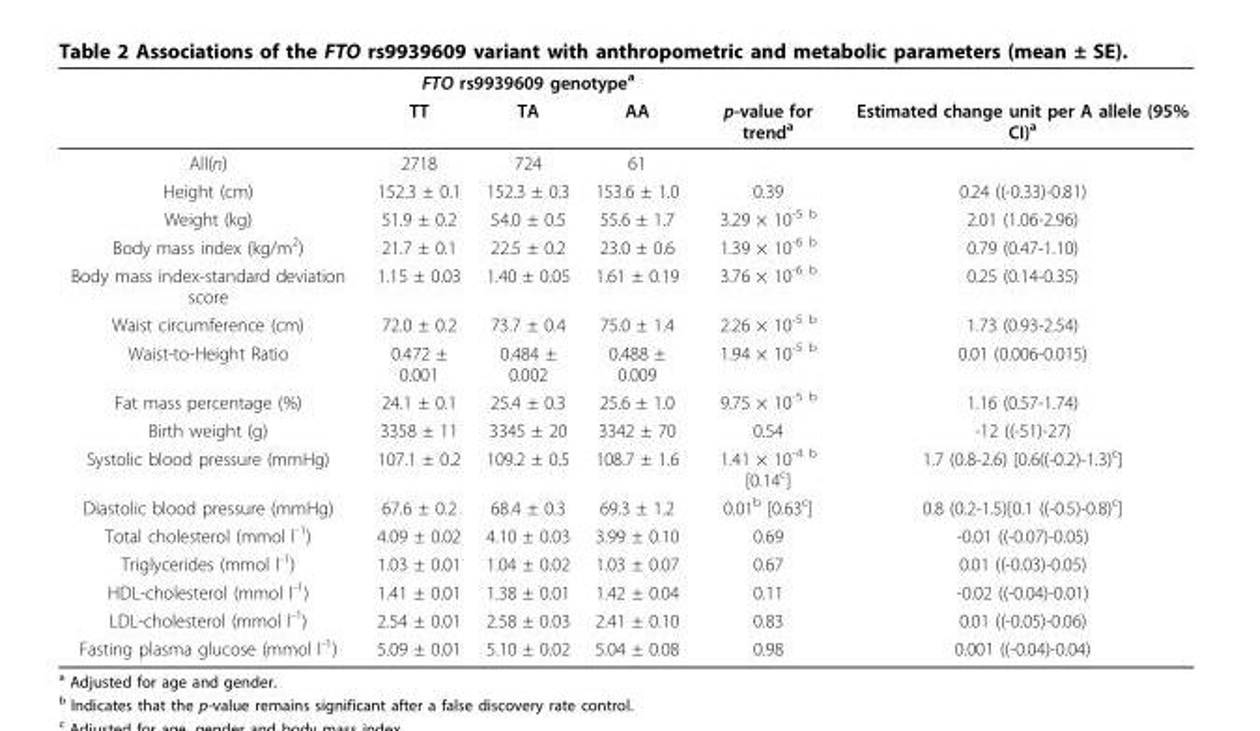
<table><thead><tr><td rowspan="2"></td><td colspan="3">FTO rs9939609 genotype<sup>a</sup></td><td rowspan="2">p-value for trend<sup>a</sup></td><td rowspan="2">Estimated change unit per A allele (95% CI)<sup>a</sup></td></tr><tr><td>TT</td><td>TA</td><td>AA</td></tr></thead><tbody><tr><td>All(n)</td><td>2718</td><td>724</td><td>61</td><td></td><td></td></tr><tr><td>Height (cm)</td><td>152.3 ± 0.1</td><td>152.3 ± 0.3</td><td>153.6 ± 1.0</td><td>0.39</td><td>0.24 ((-0.33)-0.81)</td></tr><tr><td>Weight (kg)</td><td>51.9 ± 0.2</td><td>54.0 ± 0.5</td><td>55.6 ± 1.7</td><td>3.29 × 10<sup>-5 b</sup></td><td>2.01 (1.06-2.96)</td></tr><tr><td>Body mass index (kg/m<sup>2</sup>)</td><td>21.7 ± 0.1</td><td>22.5 ± 0.2</td><td>23.0 ± 0.6</td><td>1.39 × 10<sup>-6 b</sup></td><td>0.79 (0.47-1.10)</td></tr><tr><td>Body mass index-standard deviation score</td><td>1.15 ± 0.03</td><td>1.40 ± 0.05</td><td>1.61 ± 0.19</td><td>3.76 × 10<sup>-6 b</sup></td><td>0.25 (0.14-0.35)</td></tr><tr><td>Waist circumference (cm)</td><td>72.0 ± 0.2</td><td>73.7 ± 0.4</td><td>75.0 ± 1.4</td><td>2.26 × 10<sup>-5 b</sup></td><td>1.73 (0.93-2.54)</td></tr><tr><td>Waist-to-Height Ratio</td><td>0.472 ± 0.001</td><td>0.484 ± 0.002</td><td>0.488 ± 0.009</td><td>1.94 × 10<sup>-5 b</sup></td><td>0.01 (0.006-0.015)</td></tr><tr><td>Fat mass percentage (%)</td><td>24.1 ± 0.1</td><td>25.4 ± 0.3</td><td>25.6 ± 1.0</td><td>9.75 × 10<sup>-5 b</sup></td><td>1.16 (0.57-1.74)</td></tr><tr><td>Birth weight (g)</td><td>3358 ± 11</td><td>3345 ± 20</td><td>3342 ± 70</td><td>0.54</td><td>-12 ((-51)-27)</td></tr><tr><td>Systolic blood pressure (mmHg)</td><td>107.1 ± 0.2</td><td>109.2 ± 0.5</td><td>108.7 ± 1.6</td><td>1.41 × 10<sup>-4 b</sup> [0.14<sup>c</sup>]</td><td>1.7 (0.8-2.6) [0.6((-0.2)-1.3)<sup>c</sup>]</td></tr><tr><td>Diastolic blood pressure (mmHg)</td><td>67.6 ± 0.2</td><td>68.4 ± 0.3</td><td>69.3 ± 1.2</td><td>0.01<sup>b</sup> [0.63<sup>c</sup>]</td><td>0.8 (0.2-1.5)[0.1 ((-0.5)-0.8)<sup>c</sup>]</td></tr><tr><td>Total cholesterol (mmol l<sup>-1</sup>)</td><td>4.09 ± 0.02</td><td>4.10 ± 0.03</td><td>3.99 ± 0.10</td><td>0.69</td><td>-0.01 ((-0.07)-0.05)</td></tr><tr><td>Triglycerides (mmol l<sup>-1</sup>)</td><td>1.03 ± 0.01</td><td>1.04 ± 0.02</td><td>1.03 ± 0.07</td><td>0.67</td><td>0.01 ((-0.03)-0.05)</td></tr><tr><td>HDL-cholesterol (mmol l<sup>-1</sup>)</td><td>1.41 ± 0.01</td><td>1.38 ± 0.01</td><td>1.42 ± 0.04</td><td>0.11</td><td>-0.02 ((-0.04)-0.01)</td></tr><tr><td>LDL-cholesterol (mmol l<sup>-1</sup>)</td><td>2.54 ± 0.01</td><td>2.58 ± 0.03</td><td>2.41 ± 0.10</td><td>0.83</td><td>0.01 ((-0.05)-0.06)</td></tr><tr><td>Fasting plasma glucose (mmol l<sup>-1</sup>)</td><td>5.09 ± 0.01</td><td>5.10 ± 0.02</td><td>5.04 ± 0.08</td><td>0.98</td><td>0.001 ((-0.04)-0.04)</td></tr></tbody></table>